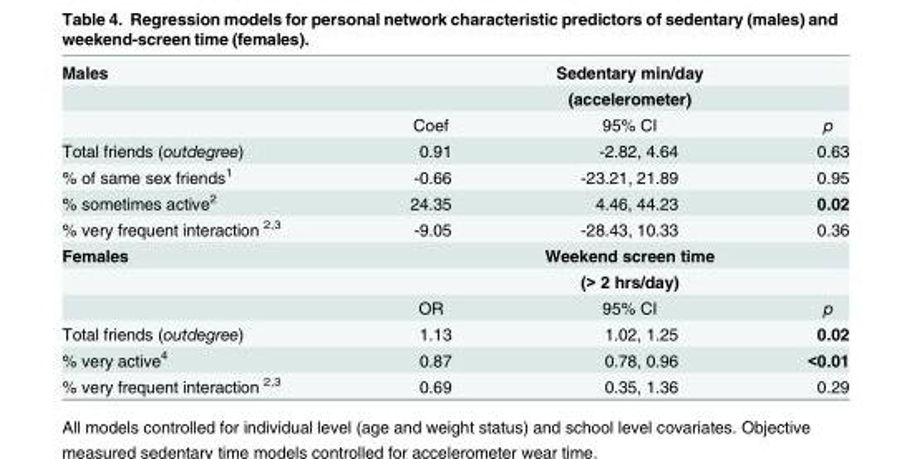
<table><tbody><tr><td rowspan="3">Males</td><td colspan="3">Sedentary min/day</td></tr><tr><td colspan="3">(accelerometer)</td></tr><tr><td>Coef</td><td>95% CI</td><td>p</td></tr><tr><td>Total friends (outdegree)</td><td>0.91</td><td>-2.82, 4.64</td><td>0.63</td></tr><tr><td>% of same sex friends<sup>1</sup></td><td>-0.66</td><td>-23.21, 21.89</td><td>0.95</td></tr><tr><td>% sometimes active<sup>2</sup></td><td>24.35</td><td>4.46, 44.23</td><td>0.02</td></tr><tr><td>% very frequent interaction <sup>2,3</sup></td><td>-9.05</td><td>-28.43, 10.33</td><td>0.36</td></tr><tr><td rowspan="3">Females</td><td colspan="3">Weekend screen time</td></tr><tr><td colspan="3">(&gt; 2 hrs/day)</td></tr><tr><td>OR</td><td>95% CI</td><td>p</td></tr><tr><td>Total friends (outdegree)</td><td>1.13</td><td>1.02, 1.25</td><td>0.02</td></tr><tr><td>% very active<sup>4</sup></td><td>0.87</td><td>0.78, 0.96</td><td>&lt;0.01</td></tr><tr><td>% very frequent interaction <sup>2,3</sup></td><td>0.69</td><td>0.35, 1.36</td><td>0.29</td></tr></tbody></table>